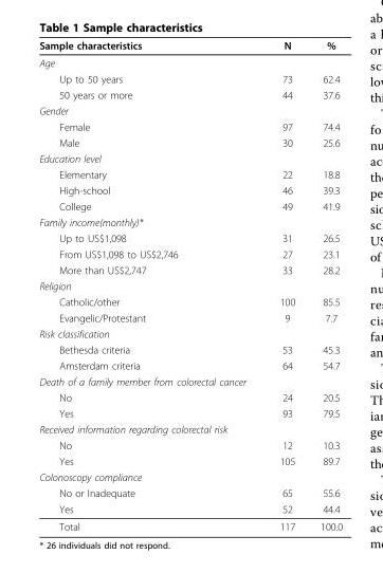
<table><thead><tr><td>Sample characteristics</td><td>N</td><td>%</td></tr></thead><tbody><tr><td colspan="3">Age</td></tr><tr><td>Up to 50 years</td><td>73</td><td>62.4</td></tr><tr><td>50 years or more</td><td>44</td><td>37.6</td></tr><tr><td colspan="3">Gender</td></tr><tr><td>Female</td><td>97</td><td>74.4</td></tr><tr><td>Male</td><td>30</td><td>25.6</td></tr><tr><td colspan="3">Education level</td></tr><tr><td>Elementary</td><td>22</td><td>18.8</td></tr><tr><td>High-school</td><td>46</td><td>39.3</td></tr><tr><td>College</td><td>49</td><td>41.9</td></tr><tr><td colspan="3">Family income(monthly)*</td></tr><tr><td>Up to US$1,098</td><td>31</td><td>26.5</td></tr><tr><td>From US$1,098 to US$2,746</td><td>27</td><td>23.1</td></tr><tr><td>More than US$2,747</td><td>33</td><td>28.2</td></tr><tr><td colspan="3">Religion</td></tr><tr><td>Catholic/other</td><td>100</td><td>85.5</td></tr><tr><td>Evangelic/Protestant</td><td>9</td><td>7.7</td></tr><tr><td colspan="3">Risk classification</td></tr><tr><td>Bethesda criteria</td><td>53</td><td>45.3</td></tr><tr><td>Amsterdam criteria</td><td>64</td><td>54.7</td></tr><tr><td colspan="3">Death of a family member from colorectal cancer</td></tr><tr><td>No</td><td>24</td><td>20.5</td></tr><tr><td>Yes</td><td>93</td><td>79.5</td></tr><tr><td colspan="3">Received information regarding colorectal risk</td></tr><tr><td>No</td><td>12</td><td>10.3</td></tr><tr><td>Yes</td><td>105</td><td>89.7</td></tr><tr><td colspan="3">Colonoscopy compliance</td></tr><tr><td>No or Inadequate</td><td>65</td><td>55.6</td></tr><tr><td>Yes</td><td>52</td><td>44.4</td></tr><tr><td>Total</td><td>117</td><td>100.0</td></tr></tbody></table>